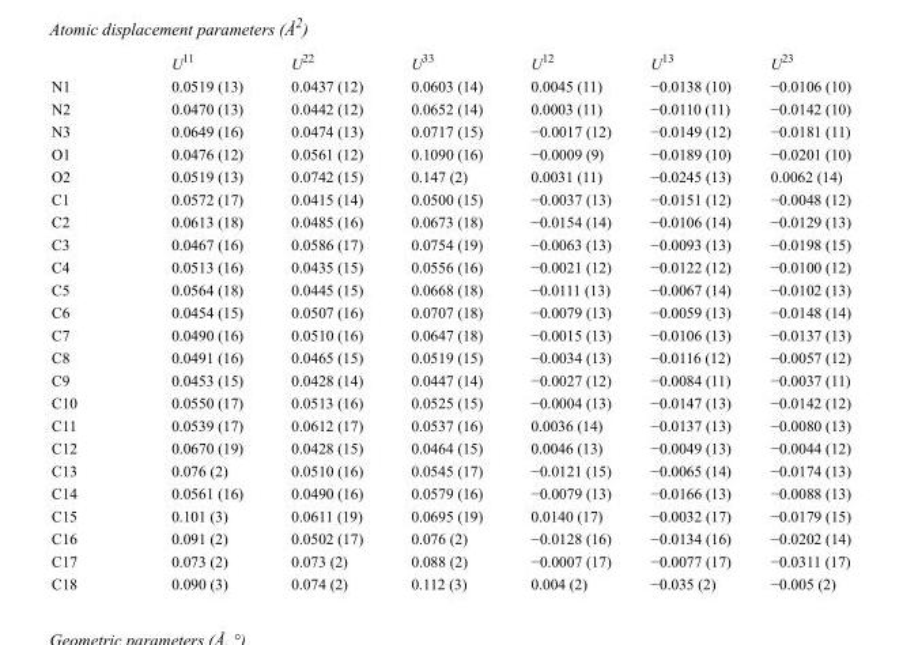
<table><thead><tr><td></td><td>U<sup>11</sup></td><td>U<sup>22</sup></td><td>U<sup>33</sup></td><td>U<sup>12</sup></td><td>U<sup>13</sup></td><td>U<sup>23</sup></td></tr></thead><tbody><tr><td>N1</td><td>0.0519 (13)</td><td>0.0437 (12)</td><td>0.0603 (14)</td><td>0.0045 (11)</td><td>−0.0138 (10)</td><td>−0.0106 (10)</td></tr><tr><td>N2</td><td>0.0470 (13)</td><td>0.0442 (12)</td><td>0.0652 (14)</td><td>0.0003 (11)</td><td>−0.0110 (11)</td><td>−0.0142 (10)</td></tr><tr><td>N3</td><td>0.0649 (16)</td><td>0.0474 (13)</td><td>0.0717 (15)</td><td>−0.0017 (12)</td><td>−0.0149 (12)</td><td>−0.0181 (11)</td></tr><tr><td>O1</td><td>0.0476 (12)</td><td>0.0561 (12)</td><td>0.1090 (16)</td><td>−0.0009 (9)</td><td>−0.0189 (10)</td><td>−0.0201 (10)</td></tr><tr><td>O2</td><td>0.0519 (13)</td><td>0.0742 (15)</td><td>0.147 (2)</td><td>0.0031 (11)</td><td>−0.0245 (13)</td><td>0.0062 (14)</td></tr><tr><td>C1</td><td>0.0572 (17)</td><td>0.0415 (14)</td><td>0.0500 (15)</td><td>−0.0037 (13)</td><td>−0.0151 (12)</td><td>−0.0048 (12)</td></tr><tr><td>C2</td><td>0.0613 (18)</td><td>0.0485 (16)</td><td>0.0673 (18)</td><td>−0.0154 (14)</td><td>−0.0106 (14)</td><td>−0.0129 (13)</td></tr><tr><td>C3</td><td>0.0467 (16)</td><td>0.0586 (17)</td><td>0.0754 (19)</td><td>−0.0063 (13)</td><td>−0.0093 (13)</td><td>−0.0198 (15)</td></tr><tr><td>C4</td><td>0.0513 (16)</td><td>0.0435 (15)</td><td>0.0556 (16)</td><td>−0.0021 (12)</td><td>−0.0122 (12)</td><td>−0.0100 (12)</td></tr><tr><td>C5</td><td>0.0564 (18)</td><td>0.0445 (15)</td><td>0.0668 (18)</td><td>−0.0111 (13)</td><td>−0.0067 (14)</td><td>−0.0102 (13)</td></tr><tr><td>C6</td><td>0.0454 (15)</td><td>0.0507 (16)</td><td>0.0707 (18)</td><td>−0.0079 (13)</td><td>−0.0059 (13)</td><td>−0.0148 (14)</td></tr><tr><td>C7</td><td>0.0490 (16)</td><td>0.0510 (16)</td><td>0.0647 (18)</td><td>−0.0015 (13)</td><td>−0.0106 (13)</td><td>−0.0137 (13)</td></tr><tr><td>C8</td><td>0.0491 (16)</td><td>0.0465 (15)</td><td>0.0519 (15)</td><td>−0.0034 (13)</td><td>−0.0116 (12)</td><td>−0.0057 (12)</td></tr><tr><td>C9</td><td>0.0453 (15)</td><td>0.0428 (14)</td><td>0.0447 (14)</td><td>−0.0027 (12)</td><td>−0.0084 (11)</td><td>−0.0037 (11)</td></tr><tr><td>C10</td><td>0.0550 (17)</td><td>0.0513 (16)</td><td>0.0525 (15)</td><td>−0.0004 (13)</td><td>−0.0147 (13)</td><td>−0.0142 (12)</td></tr><tr><td>C11</td><td>0.0539 (17)</td><td>0.0612 (17)</td><td>0.0537 (16)</td><td>0.0036 (14)</td><td>−0.0137 (13)</td><td>−0.0080 (13)</td></tr><tr><td>C12</td><td>0.0670 (19)</td><td>0.0428 (15)</td><td>0.0464 (15)</td><td>0.0046 (13)</td><td>−0.0049 (13)</td><td>−0.0044 (12)</td></tr><tr><td>C13</td><td>0.076 (2)</td><td>0.0510 (16)</td><td>0.0545 (17)</td><td>−0.0121 (15)</td><td>−0.0065 (14)</td><td>−0.0174 (13)</td></tr><tr><td>C14</td><td>0.0561 (16)</td><td>0.0490 (16)</td><td>0.0579 (16)</td><td>−0.0079 (13)</td><td>−0.0166 (13)</td><td>−0.0088 (13)</td></tr><tr><td>C15</td><td>0.101 (3)</td><td>0.0611 (19)</td><td>0.0695 (19)</td><td>0.0140 (17)</td><td>−0.0032 (17)</td><td>−0.0179 (15)</td></tr><tr><td>C16</td><td>0.091 (2)</td><td>0.0502 (17)</td><td>0.076 (2)</td><td>−0.0128 (16)</td><td>−0.0134 (16)</td><td>−0.0202 (14)</td></tr><tr><td>C17</td><td>0.073 (2)</td><td>0.073 (2)</td><td>0.088 (2)</td><td>−0.0007 (17)</td><td>−0.0077 (17)</td><td>−0.0311 (17)</td></tr><tr><td>C18</td><td>0.090 (3)</td><td>0.074 (2)</td><td>0.112 (3)</td><td>0.004 (2)</td><td>−0.035 (2)</td><td>−0.005 (2)</td></tr></tbody></table>